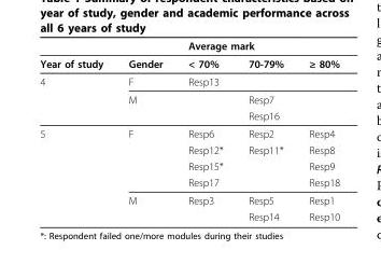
<table><thead><tr><td rowspan="2">Year of study</td><td rowspan="2">Gender</td><td colspan="3">Average mark</td></tr><tr><td>&lt; 70%</td><td>70-79%</td><td>≥ 80%</td></tr></thead><tbody><tr><td rowspan="3">4</td><td>F</td><td>Resp13</td><td></td><td></td></tr><tr><td>M</td><td></td><td>Resp7</td><td></td></tr><tr><td></td><td></td><td>Resp16</td><td></td></tr><tr><td rowspan="6">5</td><td>F</td><td>Resp6</td><td>Resp2</td><td>Resp4</td></tr><tr><td></td><td>Resp12*</td><td>Resp11*</td><td>Resp8</td></tr><tr><td></td><td>Resp15*</td><td></td><td>Resp9</td></tr><tr><td></td><td>Resp17</td><td></td><td>Resp18</td></tr><tr><td>M</td><td>Resp3</td><td>Resp5</td><td>Resp1</td></tr><tr><td></td><td></td><td>Resp14</td><td>Resp10</td></tr></tbody></table>